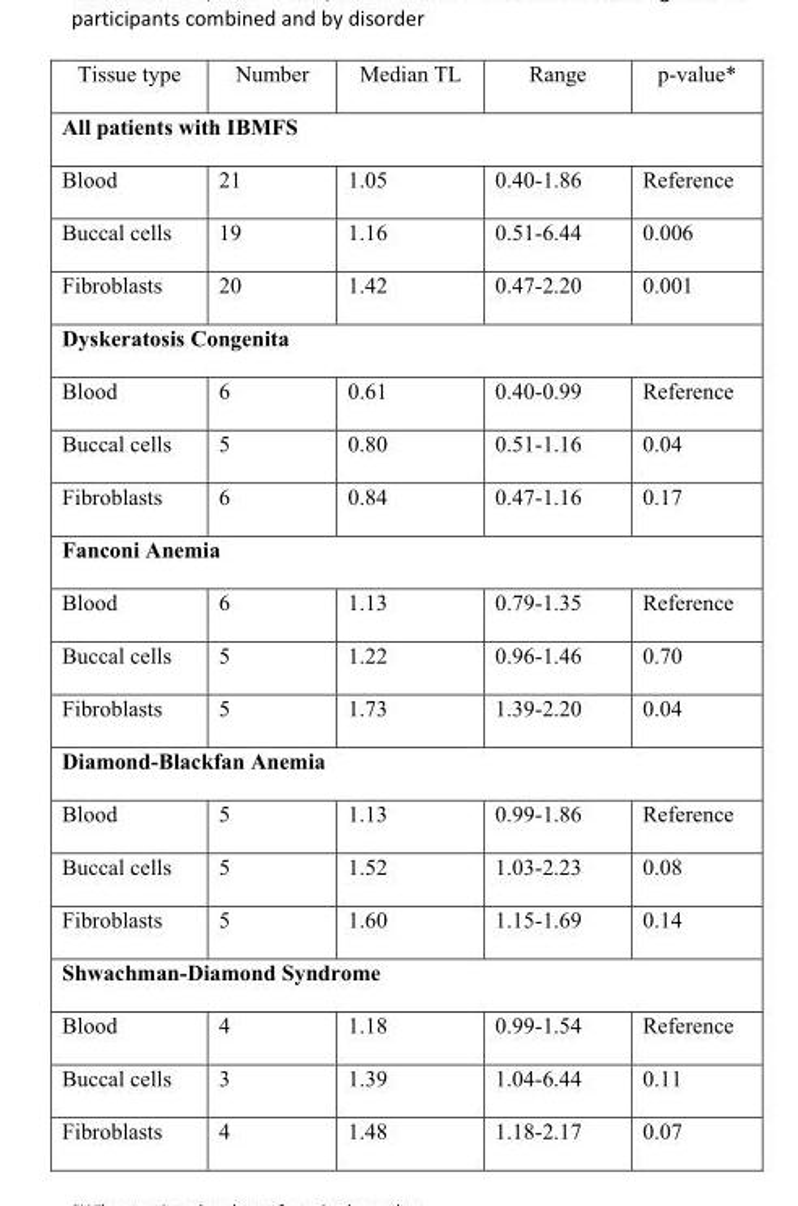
<table><thead><tr><td>Tissue type</td><td>Number</td><td>Median TL</td><td>Range</td><td>p-value*</td></tr></thead><tbody><tr><td colspan="5">All patients with IBMFS</td></tr><tr><td>Blood</td><td>21</td><td>1.05</td><td>0.40-1.86</td><td>Reference</td></tr><tr><td>Buccal cells</td><td>19</td><td>1.16</td><td>0.51-6.44</td><td>0.006</td></tr><tr><td>Fibroblasts</td><td>20</td><td>1.42</td><td>0.47-2.20</td><td>0.001</td></tr><tr><td colspan="5">Dyskeratosis Congenita</td></tr><tr><td>Blood</td><td>6</td><td>0.61</td><td>0.40-0.99</td><td>Reference</td></tr><tr><td>Buccal cells</td><td>5</td><td>0.80</td><td>0.51-1.16</td><td>0.04</td></tr><tr><td>Fibroblasts</td><td>6</td><td>0.84</td><td>0.47-1.16</td><td>0.17</td></tr><tr><td colspan="5">Fanconi Anemia</td></tr><tr><td>Blood</td><td>6</td><td>1.13</td><td>0.79-1.35</td><td>Reference</td></tr><tr><td>Buccal cells</td><td>5</td><td>1.22</td><td>0.96-1.46</td><td>0.70</td></tr><tr><td>Fibroblasts</td><td>5</td><td>1.73</td><td>1.39-2.20</td><td>0.04</td></tr><tr><td colspan="5">Diamond-Blackfan Anemia</td></tr><tr><td>Blood</td><td>5</td><td>1.13</td><td>0.99-1.86</td><td>Reference</td></tr><tr><td>Buccal cells</td><td>5</td><td>1.52</td><td>1.03-2.23</td><td>0.08</td></tr><tr><td>Fibroblasts</td><td>5</td><td>1.60</td><td>1.15-1.69</td><td>0.14</td></tr><tr><td colspan="5">Shwachman-Diamond Syndrome</td></tr><tr><td>Blood</td><td>4</td><td>1.18</td><td>0.99-1.54</td><td>Reference</td></tr><tr><td>Buccal cells</td><td>3</td><td>1.39</td><td>1.04-6.44</td><td>0.11</td></tr><tr><td>Fibroblasts</td><td>4</td><td>1.48</td><td>1.18-2.17</td><td>0.07</td></tr></tbody></table>